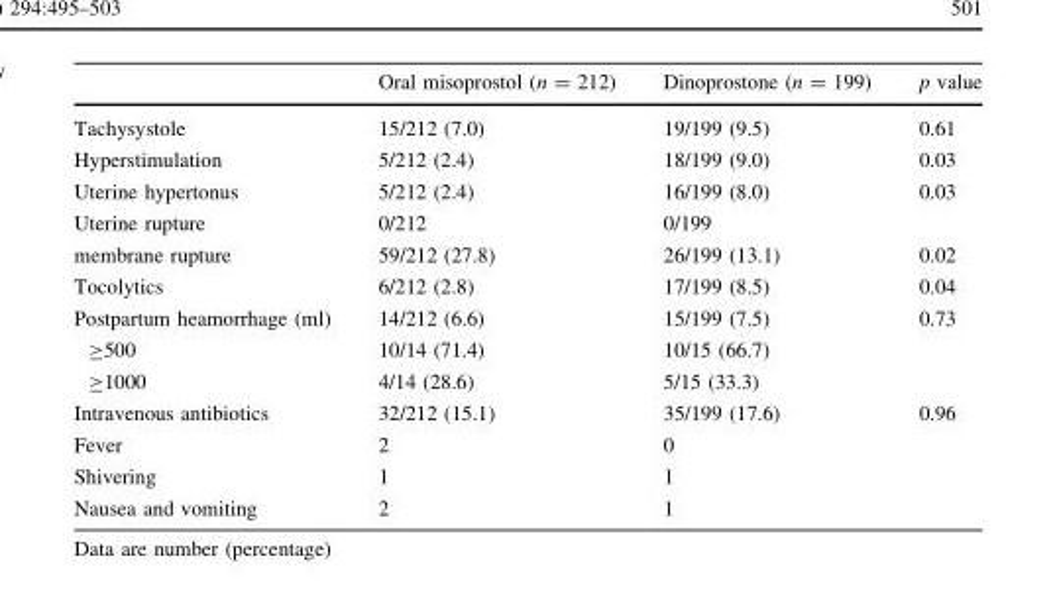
<table><thead><tr><td></td><td>Oral misoprostol (n = 212)</td><td>Dinoprostone (n = 199)</td><td>p value</td></tr></thead><tbody><tr><td>Tachysystole</td><td>15/212 (7.0)</td><td>19/199 (9.5)</td><td>0.61</td></tr><tr><td>Hyperstimulation</td><td>5/212 (2.4)</td><td>18/199 (9.0)</td><td>0.03</td></tr><tr><td>Uterine hypertonus</td><td>5/212 (2.4)</td><td>16/199 (8.0)</td><td>0.03</td></tr><tr><td>Uterine rupture</td><td>0/212</td><td>0/199</td><td></td></tr><tr><td>membrane rupture</td><td>59/212 (27.8)</td><td>26/199 (13.1)</td><td>0.02</td></tr><tr><td>Tocolytics</td><td>6/212 (2.8)</td><td>17/199 (8.5)</td><td>0.04</td></tr><tr><td>Postpartum heamorrhage (ml)</td><td>14/212 (6.6)</td><td>15/199 (7.5)</td><td>0.73</td></tr><tr><td>≥500</td><td>10/14 (71.4)</td><td>10/15 (66.7)</td><td></td></tr><tr><td>≥1000</td><td>4/14 (28.6)</td><td>5/15 (33.3)</td><td></td></tr><tr><td>Intravenous antibiotics</td><td>32/212 (15.1)</td><td>35/199 (17.6)</td><td>0.96</td></tr><tr><td>Fever</td><td>2</td><td>0</td><td></td></tr><tr><td>Shivering</td><td>1</td><td>1</td><td></td></tr><tr><td>Nausea and vomiting</td><td>2</td><td>1</td><td></td></tr></tbody></table>